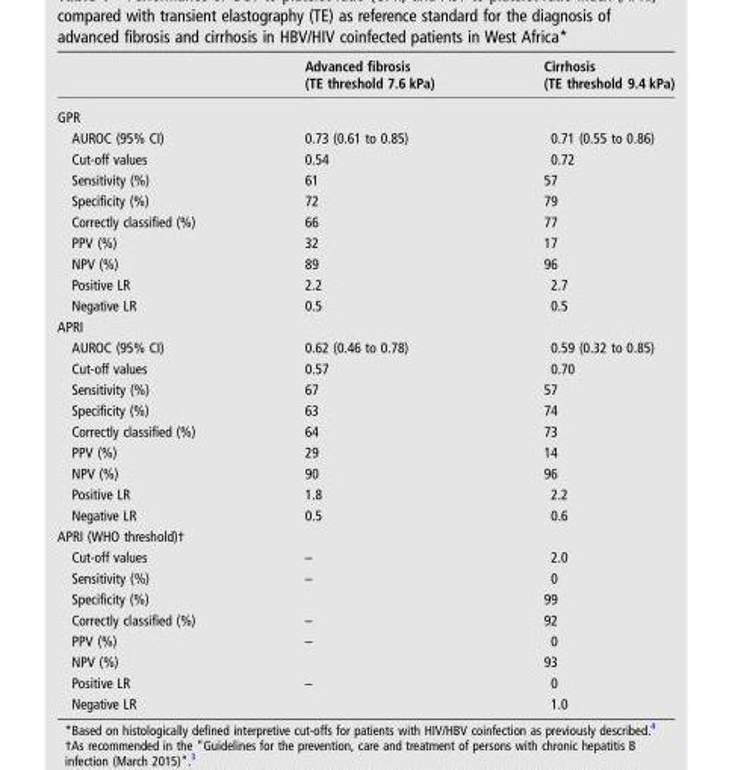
<table><thead><tr><td></td><td>Advanced fibrosis (TE threshold 7.6 kPa)</td><td>Cirrhosis (TE threshold 9.4 kPa)</td></tr></thead><tbody><tr><td colspan="3">GPR</td></tr><tr><td>AUROC (95% CI)</td><td>0.73 (0.61 to 0.85)</td><td>0.71 (0.55 to 0.86)</td></tr><tr><td>Cut-off values</td><td>0.54</td><td>0.72</td></tr><tr><td>Sensitivity (%)</td><td>61</td><td>57</td></tr><tr><td>Specificity (%)</td><td>72</td><td>79</td></tr><tr><td>Correctly classified (%)</td><td>66</td><td>77</td></tr><tr><td>PPV (%)</td><td>32</td><td>17</td></tr><tr><td>NPV (%)</td><td>89</td><td>96</td></tr><tr><td>Positive LR</td><td>2.2</td><td>2.7</td></tr><tr><td>Negative LR</td><td>0.5</td><td>0.5</td></tr><tr><td colspan="3">APRI</td></tr><tr><td>AUROC (95% CI)</td><td>0.62 (0.46 to 0.78)</td><td>0.59 (0.32 to 0.85)</td></tr><tr><td>Cut-off values</td><td>0.57</td><td>0.70</td></tr><tr><td>Sensitivity (%)</td><td>67</td><td>57</td></tr><tr><td>Specificity (%)</td><td>63</td><td>74</td></tr><tr><td>Correctly classified (%)</td><td>64</td><td>73</td></tr><tr><td>PPV (%)</td><td>29</td><td>14</td></tr><tr><td>NPV (%)</td><td>90</td><td>96</td></tr><tr><td>Positive LR</td><td>1.8</td><td>2.2</td></tr><tr><td>Negative LR</td><td>0.5</td><td>0.6</td></tr><tr><td colspan="3">APRI (WHO threshold)†</td></tr><tr><td>Cut-off values</td><td>–</td><td>2.0</td></tr><tr><td>Sensitivity (%)</td><td>–</td><td>0</td></tr><tr><td>Specificity (%)</td><td></td><td>99</td></tr><tr><td>Correctly classified (%)</td><td>–</td><td>92</td></tr><tr><td>PPV (%)</td><td>–</td><td>0</td></tr><tr><td>NPV (%)</td><td></td><td>93</td></tr><tr><td>Positive LR</td><td>–</td><td>0</td></tr><tr><td>Negative LR</td><td></td><td>1.0</td></tr></tbody></table>